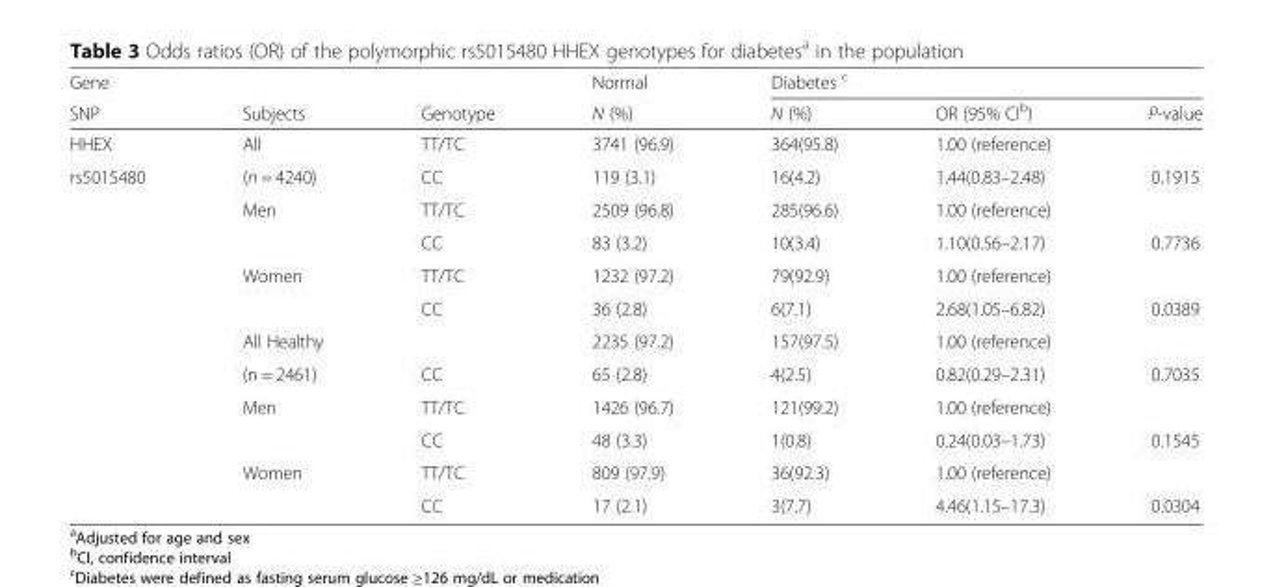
<table><thead><tr><td rowspan="2">Gene SNP</td><td rowspan="2">Subjects</td><td rowspan="2">Genotype</td><td rowspan="2">Normal N (%)</td><td colspan="3">Diabetes <sup>c</sup></td></tr><tr><td>N (%)</td><td>OR (95% CI<sup>b</sup>)</td><td>P-value</td></tr></thead><tbody><tr><td>HHEX</td><td>All</td><td>TT/TC</td><td>3741 (96.9)</td><td>364(95.8)</td><td>1.00 (reference)</td><td></td></tr><tr><td rowspan="11">rs5015480</td><td>(n = 4240)</td><td>CC</td><td>119 (3.1)</td><td>16(4.2)</td><td>1.44(0.83–2.48)</td><td>0.1915</td></tr><tr><td>Men</td><td>TT/TC</td><td>2509 (96.8)</td><td>285(96.6)</td><td>1.00 (reference)</td><td></td></tr><tr><td></td><td>CC</td><td>83 (3.2)</td><td>10(3.4)</td><td>1.10(0.56–2.17)</td><td>0.7736</td></tr><tr><td>Women</td><td>TT/TC</td><td>1232 (97.2)</td><td>79(92.9)</td><td>1.00 (reference)</td><td></td></tr><tr><td></td><td>CC</td><td>36 (2.8)</td><td>6(7.1)</td><td>2.68(1.05–6.82)</td><td>0.0389</td></tr><tr><td>All Healthy</td><td></td><td>2235 (97.2)</td><td>157(97.5)</td><td>1.00 (reference)</td><td></td></tr><tr><td>(n = 2461)</td><td>CC</td><td>65 (2.8)</td><td>4(2.5)</td><td>0.82(0.29–2.31)</td><td>0.7035</td></tr><tr><td>Men</td><td>TT/TC</td><td>1426 (96.7)</td><td>121(99.2)</td><td>1.00 (reference)</td><td></td></tr><tr><td></td><td>CC</td><td>48 (3.3)</td><td>1(0.8)</td><td>0.24(0.03–1.73)</td><td>0.1545</td></tr><tr><td>Women</td><td>TT/TC</td><td>809 (97.9)</td><td>36(92.3)</td><td>1.00 (reference)</td><td></td></tr><tr><td></td><td>CC</td><td>17 (2.1)</td><td>3(7.7)</td><td>4.46(1.15–17.3)</td><td>0.0304</td></tr></tbody></table>